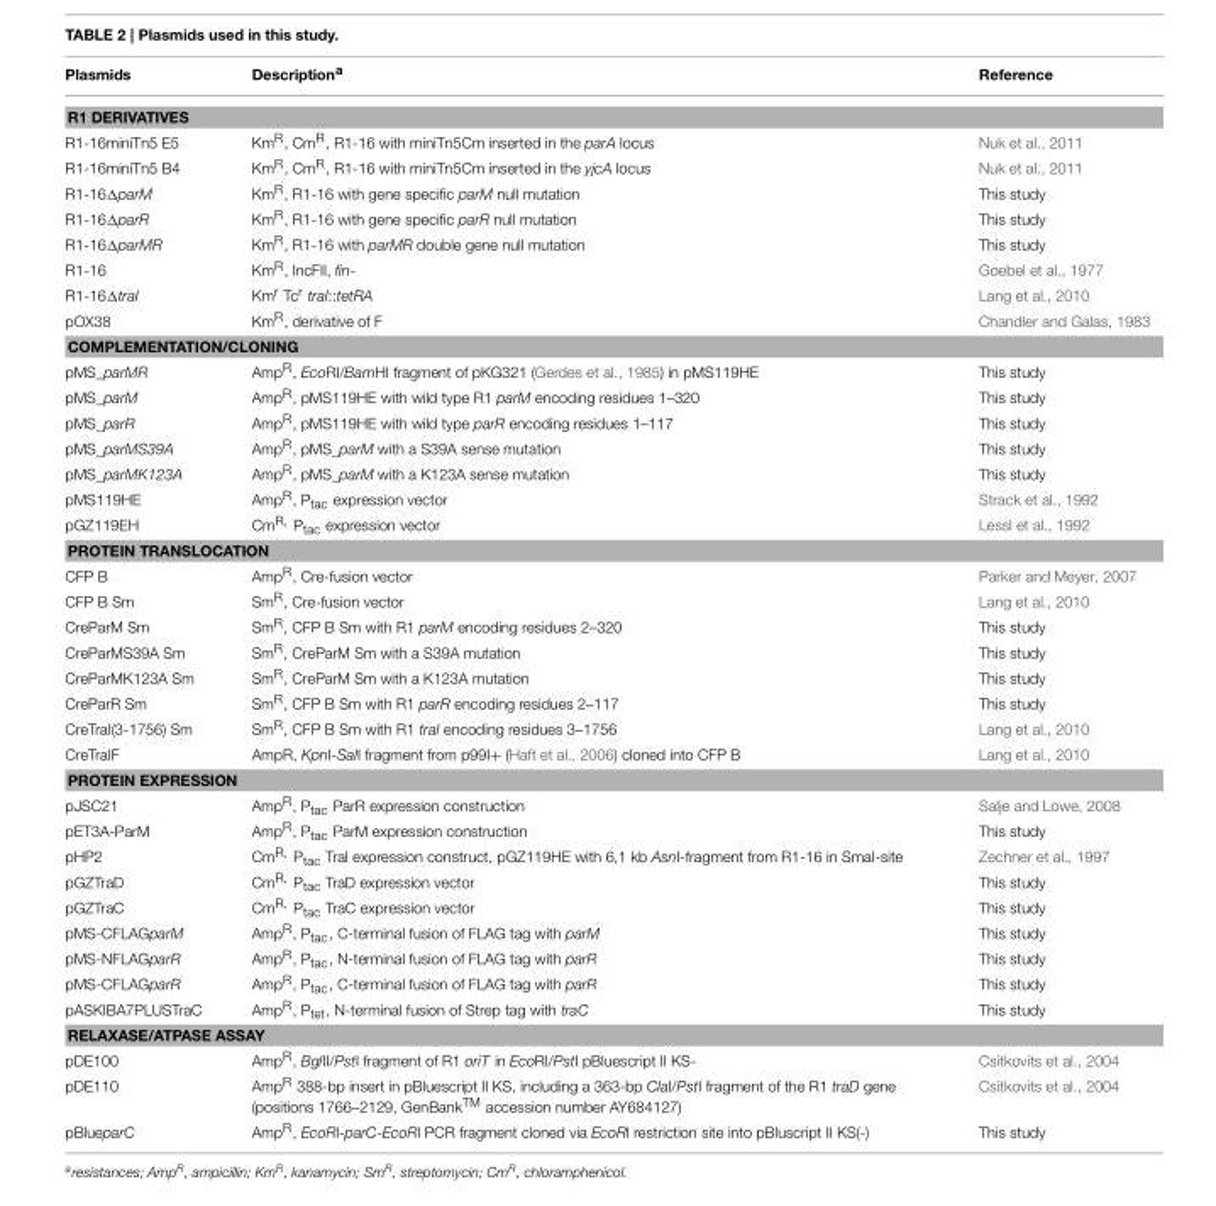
<table><thead><tr><td>Plasmids</td><td>Description<sup>a</sup></td><td>Reference</td></tr></thead><tbody><tr><td colspan="3">R1 DERIVATIVES</td></tr><tr><td>R1-16miniTn5 E5</td><td>Km<sup>R</sup>, Cm<sup>R</sup>, R1-16 with miniTn5Cm inserted in the parA locus</td><td>Nuk et al., 2011</td></tr><tr><td>R1-16miniTn5 B4</td><td>Km<sup>R</sup>, Cm<sup>R</sup>, R1-16 with miniTn5Cm inserted in the yjcA locus</td><td>Nuk et al., 2011</td></tr><tr><td>R1-16ΔparM</td><td>Km<sup>R</sup>, R1-16 with gene specific parM null mutation</td><td>This study</td></tr><tr><td>R1-16ΔparR</td><td>Km<sup>R</sup>, R1-16 with gene specific parR null mutation</td><td>This study</td></tr><tr><td>R1-16ΔparMR</td><td>Km<sup>R</sup>, R1-16 with parMR double gene null mutation</td><td>This study</td></tr><tr><td>R1-16</td><td>Km<sup>R</sup>, IncFII, fin-</td><td>Goebel et al., 1977</td></tr><tr><td>R1-16ΔtraI</td><td>Km<sup>r</sup> Tc<sup>r</sup> traI::tetRA</td><td>Lang et al., 2010</td></tr><tr><td>pOX38</td><td>Km<sup>R</sup>, derivative of F</td><td>Chandler and Galas, 1983</td></tr><tr><td colspan="3">COMPLEMENTATION/CLONING</td></tr><tr><td>pMS_parMR</td><td>Amp<sup>R</sup>, EcoRI/BamHI fragment of pKG321 (Gerdes et al., 1985) in pMS119HE</td><td>This study</td></tr><tr><td>pMS_parM</td><td>Amp<sup>R</sup>, pMS119HE with wild type R1 parM encoding residues 1–320</td><td>This study</td></tr><tr><td>pMS_parR</td><td>Amp<sup>R</sup>, pMS119HE with wild type parR encoding residues 1–117</td><td>This study</td></tr><tr><td>pMS_parMS39A</td><td>Amp<sup>R</sup>, pMS_parM with a S39A sense mutation</td><td>This study</td></tr><tr><td>pMS_parMK123A</td><td>Amp<sup>R</sup>, pMS_parM with a K123A sense mutation</td><td>This study</td></tr><tr><td>pMS119HE</td><td>Amp<sup>R</sup>, P<sub>tac</sub> expression vector</td><td>Strack et al., 1992</td></tr><tr><td>pGZ119EH</td><td>Cm<sup>R</sup>, P<sub>tac</sub> expression vector</td><td>Lessl et al., 1992</td></tr><tr><td colspan="3">PROTEIN TRANSLOCATION</td></tr><tr><td>CFP B</td><td>Amp<sup>R</sup>, Cre-fusion vector</td><td>Parker and Meyer, 2007</td></tr><tr><td>CFP B Sm</td><td>Sm<sup>R</sup>, Cre-fusion vector</td><td>Lang et al., 2010</td></tr><tr><td>CreParM Sm</td><td>Sm<sup>R</sup>, CFP B Sm with R1 parM encoding residues 2–320</td><td>This study</td></tr><tr><td>CreParMS39A Sm</td><td>Sm<sup>R</sup>, CreParM Sm with a S39A mutation</td><td>This study</td></tr><tr><td>CreParMK123A Sm</td><td>Sm<sup>R</sup>, CreParM Sm with a K123A mutation</td><td>This study</td></tr><tr><td>CreParR Sm</td><td>Sm<sup>R</sup>, CFP B Sm with R1 parR encoding residues 2–117</td><td>This study</td></tr><tr><td>CreTraI(3-1756) Sm</td><td>Sm<sup>R</sup>, CFP B Sm with R1 traI encoding residues 3–1756</td><td>Lang et al., 2010</td></tr><tr><td>CreTraIF</td><td>AmpR, KpnI-SalI fragment from p99I+ (Haft et al., 2006) cloned into CFP B</td><td>Lang et al., 2010</td></tr><tr><td colspan="3">PROTEIN EXPRESSION</td></tr><tr><td>pJSC21</td><td>Amp<sup>R</sup>, P<sub>tac</sub> ParR expression construction</td><td>Salje and Lowe, 2008</td></tr><tr><td>pET3A-ParM</td><td>Amp<sup>R</sup>, P<sub>tac</sub> ParM expression construction</td><td>This study</td></tr><tr><td>pHP2</td><td>Cm<sup>R</sup>, P<sub>tac</sub> TraI expression construct, pGZ119HE with 6,1 kb AsnI-fragment from R1-16 in SmaI-site</td><td>Zechner et al., 1997</td></tr><tr><td>pGZTraD</td><td>Cm<sup>R</sup>, P<sub>tac</sub> TraD expression vector</td><td>This study</td></tr><tr><td>pGZTraC</td><td>Cm<sup>R</sup>, P<sub>tac</sub> TraC expression vector</td><td>This study</td></tr><tr><td>pMS-CFLAGparM</td><td>Amp<sup>R</sup>, P<sub>tac</sub>, C-terminal fusion of FLAG tag with parM</td><td>This study</td></tr><tr><td>pMS-NFLAGparR</td><td>Amp<sup>R</sup>, P<sub>tac</sub>, N-terminal fusion of FLAG tag with parR</td><td>This study</td></tr><tr><td>pMS-CFLAGparR</td><td>Amp<sup>R</sup>, P<sub>tac</sub>, C-terminal fusion of FLAG tag with parR</td><td>This study</td></tr><tr><td>pASKIBA7PLUSTraC</td><td>Amp<sup>R</sup>, P<sup>tet</sup>, N-terminal fusion of Strep tag with traC</td><td>This study</td></tr><tr><td colspan="3">RELAXASE/ATPASE ASSAY</td></tr><tr><td>pDE100</td><td>Amp<sup>R</sup>, BglII/PstI fragment of R1 oriT in EcoRI/PstI pBluescript II KS-</td><td>Csitkovits et al., 2004</td></tr><tr><td>pDE110</td><td>Amp<sup>R</sup> 388-bp insert in pBluescript II KS, including a 363-bp ClaI/PstI fragment of the R1 traD gene (positions 1766–2129, GenBankTM accession number AY684127)</td><td>Csitkovits et al., 2004</td></tr><tr><td>pBlueparC</td><td>Amp<sup>R</sup>, EcoRI-parC-EcoRI PCR fragment cloned via EcoRI restriction site into pBluscript II KS(-)</td><td>This study</td></tr></tbody></table>